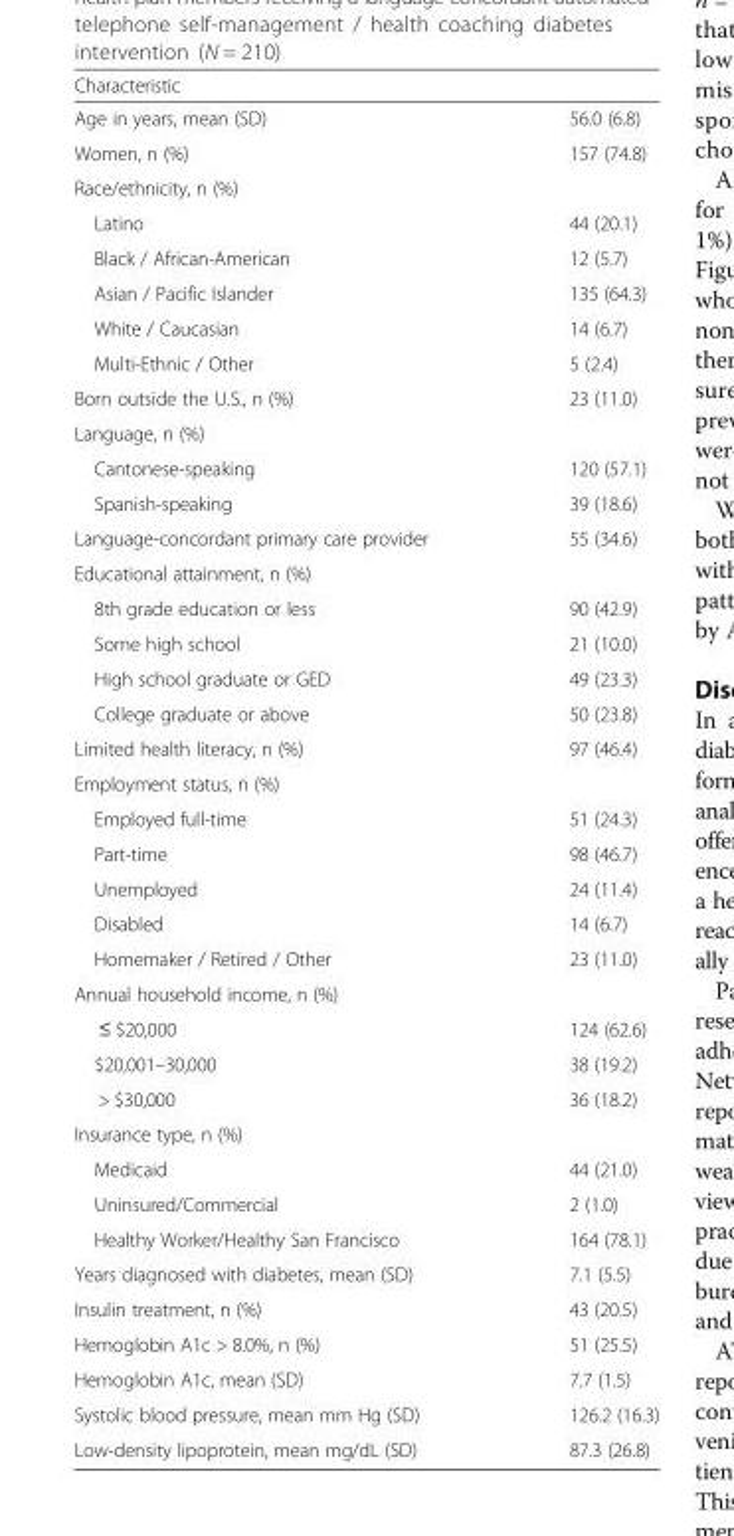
<table><thead><tr><td colspan="2">Characteristic</td></tr><tr><td>Age in years, mean (SD)</td><td>56.0 (6.8)</td></tr></thead><tbody><tr><td>Women, n (%)</td><td>157 (74.8)</td></tr><tr><td colspan="2">Race/ethnicity, n (%)</td></tr><tr><td>Latino</td><td>44 (20.1)</td></tr><tr><td>Black / African-American</td><td>12 (5.7)</td></tr><tr><td>Asian / Pacific Islander</td><td>135 (64.3)</td></tr><tr><td>White / Caucasian</td><td>14 (6.7)</td></tr><tr><td>Multi-Ethnic / Other</td><td>5 (2.4)</td></tr><tr><td>Born outside the U.S., n (%)</td><td>23 (11.0)</td></tr><tr><td colspan="2">Language, n (%)</td></tr><tr><td>Cantonese-speaking</td><td>120 (57.1)</td></tr><tr><td>Spanish-speaking</td><td>39 (18.6)</td></tr><tr><td>Language-concordant primary care provider</td><td>55 (34.6)</td></tr><tr><td colspan="2">Educational attainment, n (%)</td></tr><tr><td>8th grade education or less</td><td>90 (42.9)</td></tr><tr><td>Some high school</td><td>21 (10.0)</td></tr><tr><td>High school graduate or GED</td><td>49 (23.3)</td></tr><tr><td>College graduate or above</td><td>50 (23.8)</td></tr><tr><td>Limited health literacy, n (%)</td><td>97 (46.4)</td></tr><tr><td colspan="2">Employment status, n (%)</td></tr><tr><td>Employed full-time</td><td>51 (24.3)</td></tr><tr><td>Part-time</td><td>98 (46.7)</td></tr><tr><td>Unemployed</td><td>24 (11.4)</td></tr><tr><td>Disabled</td><td>14 (6.7)</td></tr><tr><td>Homemaker / Retired / Other</td><td>23 (11.0)</td></tr><tr><td colspan="2">Annual household income, n (%)</td></tr><tr><td>≤ $20,000</td><td>124 (62.6)</td></tr><tr><td>$20,001–30,000</td><td>38 (19.2)</td></tr><tr><td>&gt; $30,000</td><td>36 (18.2)</td></tr><tr><td colspan="2">Insurance type, n (%)</td></tr><tr><td>Medicaid</td><td>44 (21.0)</td></tr><tr><td>Uninsured/Commercial</td><td>2 (1.0)</td></tr><tr><td>Healthy Worker/Healthy San Francisco</td><td>164 (78.1)</td></tr><tr><td>Years diagnosed with diabetes, mean (SD)</td><td>7.1 (5.5)</td></tr><tr><td>Insulin treatment, n (%)</td><td>43 (20.5)</td></tr><tr><td>Hemoglobin A1c &gt; 8.0%, n (%)</td><td>51 (25.5)</td></tr><tr><td>Hemoglobin A1c, mean (SD)</td><td>7.7 (1.5)</td></tr><tr><td>Systolic blood pressure, mean mm Hg (SD)</td><td>126.2 (16.3)</td></tr><tr><td>Low-density lipoprotein, mean mg/dL (SD)</td><td>87.3 (26.8)</td></tr></tbody></table>